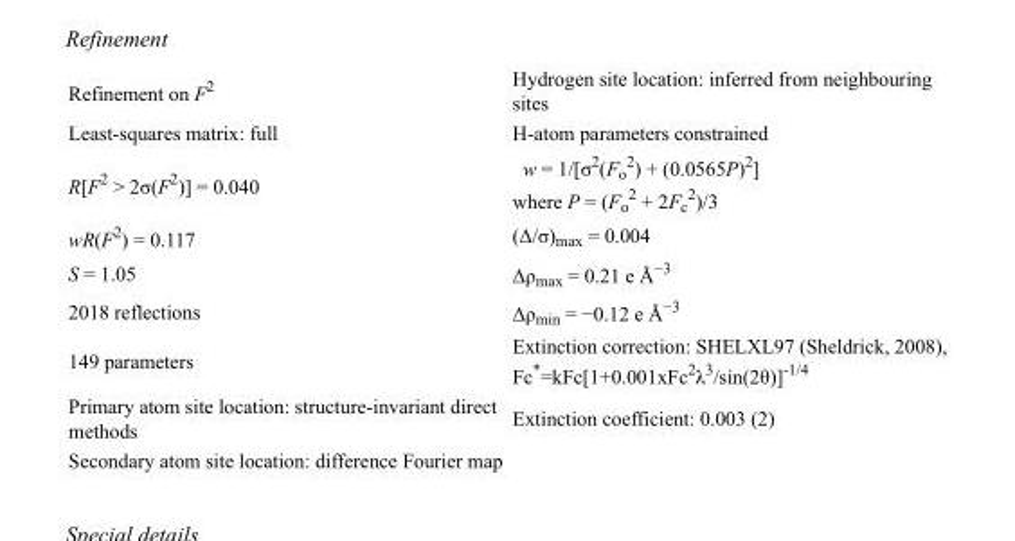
<table><tbody><tr><td>Refinement on F<sup>2</sup></td><td>Hydrogen site location: inferred from neighbouring sites</td></tr><tr><td>Least-squares matrix: full</td><td>H-atom parameters constrained</td></tr><tr><td>R[F<sup>2</sup> &gt; 2σ(F<sup>2</sup>)] = 0.040</td><td>w = 1/[σ<sup>2</sup>(F<sub>o</sub> <sup>2</sup>) + (0.0565P)<sup>2</sup>] where P = (F<sub>o</sub> <sup>2</sup> + 2F<sub>c</sub> <sup>2</sup>)/3</td></tr><tr><td>wR(F<sup>2</sup>) = 0.117</td><td>(Δ/σ)<sub>max</sub> = 0.004</td></tr><tr><td>S = 1.05</td><td>Δρ<sub>max</sub> = 0.21 e Å<sup>−3</sup></td></tr><tr><td>2018 reflections</td><td>Δρ<sub>min</sub> = −0.12 e Å<sup>−3</sup></td></tr><tr><td>149 parameters</td><td>Extinction correction: SHELXL97 (Sheldrick, 2008), Fc*=kFc[1+0.001xFc<sup>2</sup>λ<sup>3</sup>/sin(2θ)]<sup>-1/4</sup></td></tr><tr><td>Primary atom site location: structure-invariant direct methods</td><td>Extinction coefficient: 0.003 (2)</td></tr><tr><td>Secondary atom site location: difference Fourier map</td><td></td></tr></tbody></table>